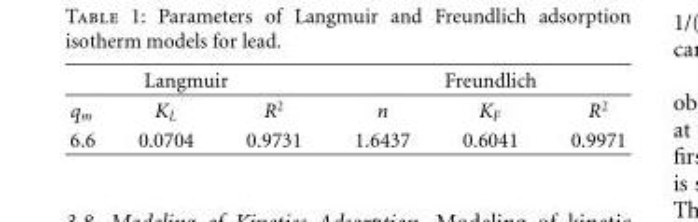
<table><thead><tr><td colspan="3">Langmuir</td><td colspan="3">Freundlich</td></tr><tr><td>q<sub>m</sub></td><td>K<sub>L</sub></td><td>R<sup>2</sup></td><td>n</td><td>K<sub>F</sub></td><td>R<sup>2</sup></td></tr></thead><tbody><tr><td>6.6</td><td>0.0704</td><td>0.9731</td><td>1.6437</td><td>0.6041</td><td>0.9971</td></tr></tbody></table>